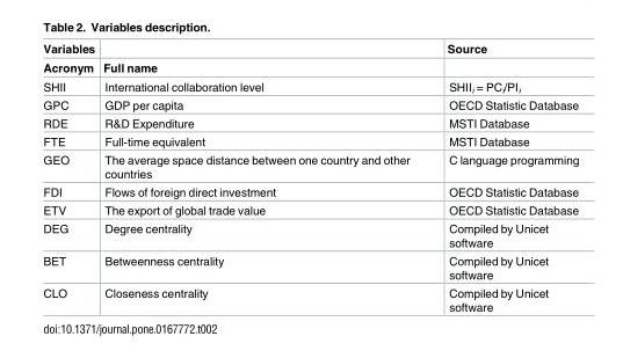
<table><thead><tr><td rowspan="2">Variables Acronym</td><td rowspan="2">Full name</td><td rowspan="2">Source</td></tr><tr></tr></thead><tbody><tr><td>SHII</td><td>International collaboration level</td><td>SHII<sub>i</sub> = PC<sub>i</sub>/PI<sub>i</sub></td></tr><tr><td>GPC</td><td>GDP per capita</td><td>OECD Statistic Database</td></tr><tr><td>RDE</td><td>R&amp;D Expenditure</td><td>MSTI Database</td></tr><tr><td>FTE</td><td>Full-time equivalent</td><td>MSTI Database</td></tr><tr><td>GEO</td><td>The average space distance between one country and other countries</td><td>C language programming</td></tr><tr><td>FDI</td><td>Flows of foreign direct investment</td><td>OECD Statistic Database</td></tr><tr><td>ETV</td><td>The export of global trade value</td><td>OECD Statistic Database</td></tr><tr><td>DEG</td><td>Degree centrality</td><td>Compiled by Unicet software</td></tr><tr><td>BET</td><td>Betweenness centrality</td><td>Compiled by Unicet software</td></tr><tr><td>CLO</td><td>Closeness centrality</td><td>Compiled by Unicet software</td></tr></tbody></table>